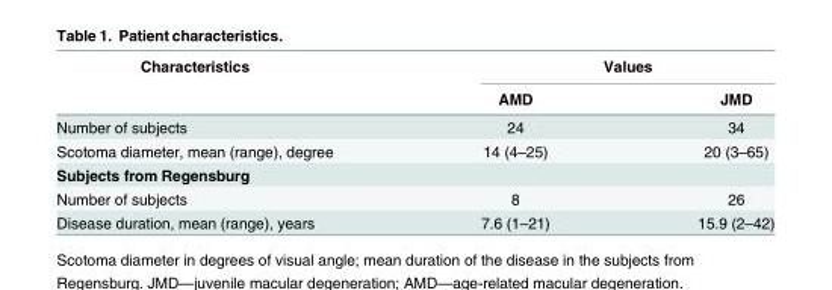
<table><thead><tr><td rowspan="2">Characteristics</td><td colspan="2">Values</td></tr><tr><td>AMD</td><td>JMD</td></tr></thead><tbody><tr><td>Number of subjects</td><td>24</td><td>34</td></tr><tr><td>Scotoma diameter, mean (range), degree</td><td>14 (4–25)</td><td>20 (3–65)</td></tr><tr><td colspan="3">Subjects from Regensburg</td></tr><tr><td>Number of subjects</td><td>8</td><td>26</td></tr><tr><td>Disease duration, mean (range), years</td><td>7.6 (1–21)</td><td>15.9 (2–42)</td></tr></tbody></table>